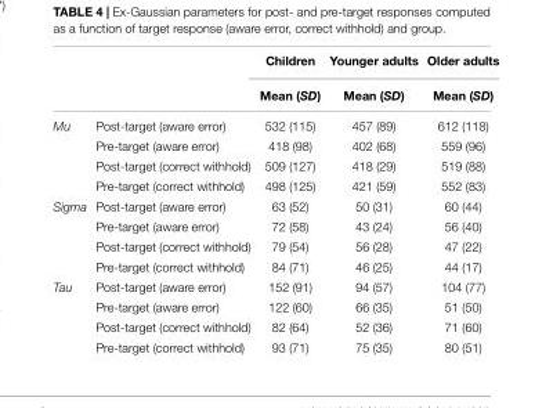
<table><thead><tr><td rowspan="2"></td><td rowspan="2"></td><td rowspan="2">Children Mean (SD)</td><td rowspan="2">Younger adults Mean (SD)</td><td rowspan="2">Older adults Mean (SD)</td></tr><tr></tr></thead><tbody><tr><td rowspan="4">Mu</td><td>Post-target (aware error)</td><td>532 (115)</td><td>457 (89)</td><td>612 (118)</td></tr><tr><td>Pre-target (aware error)</td><td>418 (98)</td><td>402 (68)</td><td>559 (96)</td></tr><tr><td>Post-target (correct withhold)</td><td>509 (127)</td><td>418 (29)</td><td>519 (88)</td></tr><tr><td>Pre-target (correct withhold)</td><td>498 (125)</td><td>421 (59)</td><td>552 (83)</td></tr><tr><td rowspan="4">Sigma</td><td>Post-target (aware error)</td><td>63 (52)</td><td>50 (31)</td><td>60 (44)</td></tr><tr><td>Pre-target (aware error)</td><td>72 (58)</td><td>43 (24)</td><td>56 (40)</td></tr><tr><td>Post-target (correct withhold)</td><td>79 (54)</td><td>56 (28)</td><td>47 (22)</td></tr><tr><td>Pre-target (correct withhold)</td><td>84 (71)</td><td>46 (25)</td><td>44 (17)</td></tr><tr><td rowspan="4">Tau</td><td>Post-target (aware error)</td><td>152 (91)</td><td>94 (57)</td><td>104 (77)</td></tr><tr><td>Pre-target (aware error)</td><td>122 (60)</td><td>66 (35)</td><td>51 (50)</td></tr><tr><td>Post-target (correct withhold)</td><td>82 (64)</td><td>52 (36)</td><td>71 (60)</td></tr><tr><td>Pre-target (correct withhold)</td><td>93 (71)</td><td>75 (35)</td><td>80 (51)</td></tr></tbody></table>